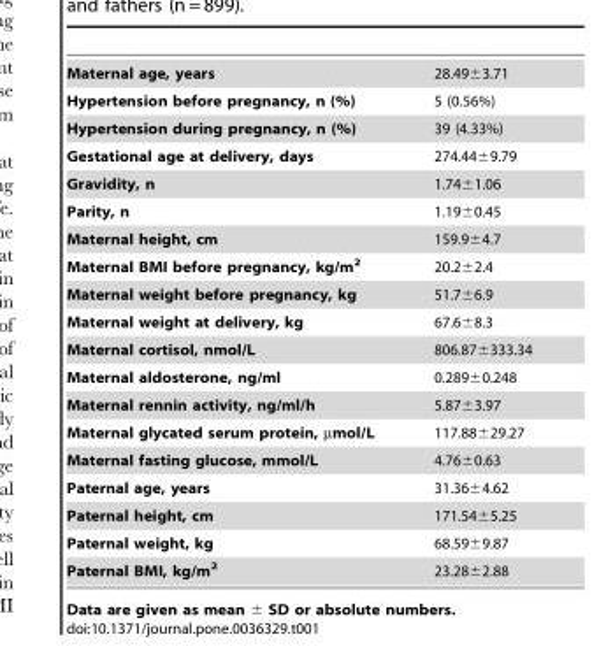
<table><tbody><tr><td>Maternal age, years</td><td>28.49±3.71</td></tr><tr><td>Hypertension before pregnancy, n (%)</td><td>5 (0.56%)</td></tr><tr><td>Hypertension during pregnancy, n (%)</td><td>39 (4.33%)</td></tr><tr><td>Gestational age at delivery, days</td><td>274.44±9.79</td></tr><tr><td>Gravidity, n</td><td>1.74±1.06</td></tr><tr><td>Parity, n</td><td>1.19±0.45</td></tr><tr><td>Maternal height, cm</td><td>159.9±4.7</td></tr><tr><td>Maternal BMI before pregnancy, kg/m<sup>2</sup></td><td>20.2±2.4</td></tr><tr><td>Maternal weight before pregnancy, kg</td><td>51.7±6.9</td></tr><tr><td>Maternal weight at delivery, kg</td><td>67.6±8.3</td></tr><tr><td>Maternal cortisol, nmol/L</td><td>806.87±333.34</td></tr><tr><td>Maternal aldosterone, ng/ml</td><td>0.289±0.248</td></tr><tr><td>Maternal rennin activity, ng/ml/h</td><td>5.87±3.97</td></tr><tr><td>Maternal glycated serum protein, µmol/L</td><td>117.88±29.27</td></tr><tr><td>Maternal fasting glucose, mmol/L</td><td>4.76±0.63</td></tr><tr><td>Paternal age, years</td><td>31.36±4.62</td></tr><tr><td>Paternal height, cm</td><td>171.54±5.25</td></tr><tr><td>Paternal weight, kg</td><td>68.59±9.87</td></tr><tr><td>Paternal BMI, kg/m<sup>2</sup></td><td>23.28±2.88</td></tr></tbody></table>